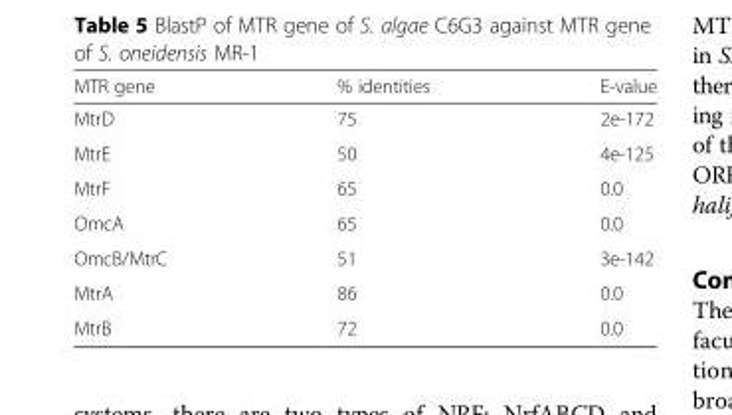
<table><thead><tr><td>MTR gene</td><td>% identities</td><td>E-value</td></tr></thead><tbody><tr><td>MtrD</td><td>75</td><td>2e-172</td></tr><tr><td>MtrE</td><td>50</td><td>4e-125</td></tr><tr><td>MtrF</td><td>65</td><td>0.0</td></tr><tr><td>OmcA</td><td>65</td><td>0.0</td></tr><tr><td>OmcB/MtrC</td><td>51</td><td>3e-142</td></tr><tr><td>MtrA</td><td>86</td><td>0.0</td></tr><tr><td>MtrB</td><td>72</td><td>0.0</td></tr></tbody></table>